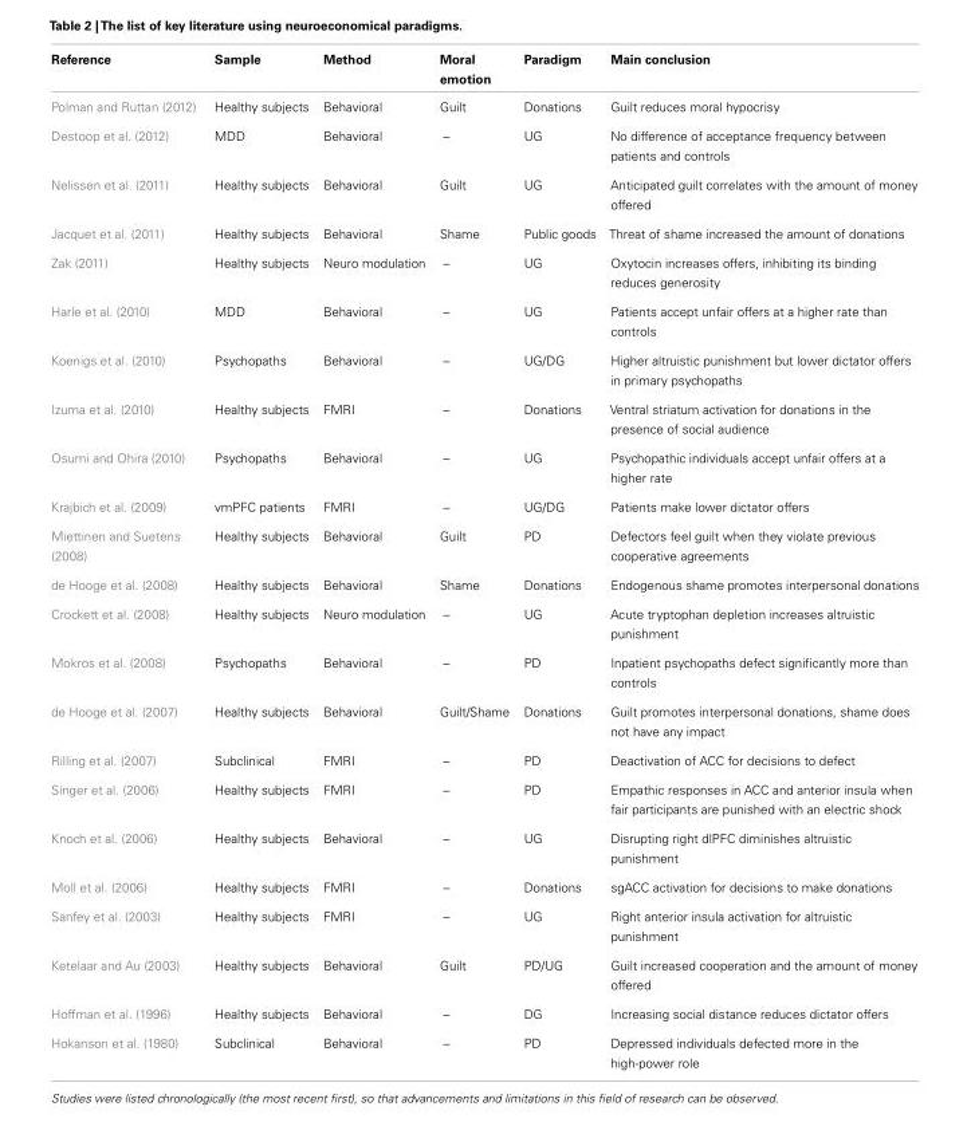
<table><thead><tr><td>Reference</td><td>Sample</td><td>Method</td><td>Moral emotion</td><td>Paradigm</td><td>Main conclusion</td></tr></thead><tbody><tr><td>Polman and Ruttan (2012)</td><td>Healthy subjects</td><td>Behavioral</td><td>Guilt</td><td>Donations</td><td>Guilt reduces moral hypocrisy</td></tr><tr><td>Destoop et al. (2012)</td><td>MDD</td><td>Behavioral</td><td>–</td><td>UG</td><td>No difference of acceptance frequency between patients and controls</td></tr><tr><td>Nelissen et al. (2011)</td><td>Healthy subjects</td><td>Behavioral</td><td>Guilt</td><td>UG</td><td>Anticipated guilt correlates with the amount of money offered</td></tr><tr><td>Jacquet et al. (2011)</td><td>Healthy subjects</td><td>Behavioral</td><td>Shame</td><td>Public goods</td><td>Threat of shame increased the amount of donations</td></tr><tr><td>Zak (2011)</td><td>Healthy subjects</td><td>Neuro modulation</td><td>–</td><td>UG</td><td>Oxytocin increases offers, inhibiting its binding reduces generosity</td></tr><tr><td>Harle et al. (2010)</td><td>MDD</td><td>Behavioral</td><td>–</td><td>UG</td><td>Patients accept unfair offers at a higher rate than controls</td></tr><tr><td>Koenigs et al. (2010)</td><td>Psychopaths</td><td>Behavioral</td><td>–</td><td>UG/DG</td><td>Higher altruistic punishment but lower dictator offers in primary psychopaths</td></tr><tr><td>Izuma et al. (2010)</td><td>Healthy subjects</td><td>FMRI</td><td>–</td><td>Donations</td><td>Ventral striatum activation for donations in the presence of social audience</td></tr><tr><td>Osumi and Ohira (2010)</td><td>Psychopaths</td><td>Behavioral</td><td>–</td><td>UG</td><td>Psychopathic individuals accept unfair offers at a higher rate</td></tr><tr><td>Krajbich et al. (2009)</td><td>vmPFC patients</td><td>FMRI</td><td>–</td><td>UG/DG</td><td>Patients make lower dictator offers</td></tr><tr><td>Miettinen and Suetens (2008)</td><td>Healthy subjects</td><td>Behavioral</td><td>Guilt</td><td>PD</td><td>Defectors feel guilt when they violate previous cooperative agreements</td></tr><tr><td>de Hooge et al. (2008)</td><td>Healthy subjects</td><td>Behavioral</td><td>Shame</td><td>Donations</td><td>Endogenous shame promotes interpersonal donations</td></tr><tr><td>Crockett et al. (2008)</td><td>Healthy subjects</td><td>Neuro modulation</td><td>–</td><td>UG</td><td>Acute tryptophan depletion increases altruistic punishment</td></tr><tr><td>Mokros et al. (2008)</td><td>Psychopaths</td><td>Behavioral</td><td>–</td><td>PD</td><td>Inpatient psychopaths defect significantly more than controls</td></tr><tr><td>de Hooge et al. (2007)</td><td>Healthy subjects</td><td>Behavioral</td><td>Guilt/Shame</td><td>Donations</td><td>Guilt promotes interpersonal donations, shame does not have any impact</td></tr><tr><td>Rilling et al. (2007)</td><td>Subclinical</td><td>FMRI</td><td>–</td><td>PD</td><td>Deactivation of ACC for decisions to defect</td></tr><tr><td>Singer et al. (2006)</td><td>Healthy subjects</td><td>FMRI</td><td>–</td><td>PD</td><td>Empathic responses in ACC and anterior insula when fair participants are punished with an electric shock</td></tr><tr><td>Knoch et al. (2006)</td><td>Healthy subjects</td><td>Behavioral</td><td>–</td><td>UG</td><td>Disrupting right dlPFC diminishes altruistic punishment</td></tr><tr><td>Moll et al. (2006)</td><td>Healthy subjects</td><td>FMRI</td><td>–</td><td>Donations</td><td>sgACC activation for decisions to make donations</td></tr><tr><td>Sanfey et al. (2003)</td><td>Healthy subjects</td><td>FMRI</td><td>–</td><td>UG</td><td>Right anterior insula activation for altruistic punishment</td></tr><tr><td>Ketelaar and Au (2003)</td><td>Healthy subjects</td><td>Behavioral</td><td>Guilt</td><td>PD/UG</td><td>Guilt increased cooperation and the amount of money offered</td></tr><tr><td>Hoffman et al. (1996)</td><td>Healthy subjects</td><td>Behavioral</td><td>–</td><td>DG</td><td>Increasing social distance reduces dictator offers</td></tr><tr><td>Hokanson et al. (1980)</td><td>Subclinical</td><td>Behavioral</td><td>–</td><td>PD</td><td>Depressed individuals defected more in the high-power role</td></tr></tbody></table>